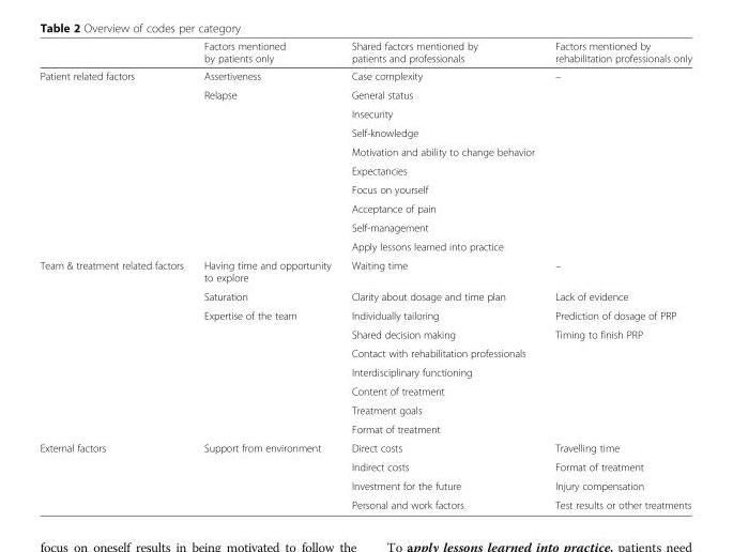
<table><thead><tr><td></td><td>Factors mentioned by patients only</td><td>Shared factors mentioned by patients and professionals</td><td>Factors mentioned by rehabilitation professionals only</td></tr></thead><tbody><tr><td rowspan="10">Patient related factors</td><td>Assertiveness</td><td>Case complexity</td><td>–</td></tr><tr><td>Relapse</td><td>General status</td><td></td></tr><tr><td></td><td>Insecurity</td><td></td></tr><tr><td></td><td>Self-knowledge</td><td></td></tr><tr><td></td><td>Motivation and ability to change behavior</td><td></td></tr><tr><td></td><td>Expectancies</td><td></td></tr><tr><td></td><td>Focus on yourself</td><td></td></tr><tr><td></td><td>Acceptance of pain</td><td></td></tr><tr><td></td><td>Self-management</td><td></td></tr><tr><td></td><td>Apply lessons learned into practice</td><td></td></tr><tr><td rowspan="9">Team &amp; treatment related factors</td><td>Having time and opportunity to explore</td><td>Waiting time</td><td>–</td></tr><tr><td>Saturation</td><td>Clarity about dosage and time plan</td><td>Lack of evidence</td></tr><tr><td>Expertise of the team</td><td>Individually tailoring</td><td>Prediction of dosage of PRP</td></tr><tr><td></td><td>Shared decision making</td><td>Timing to finish PRP</td></tr><tr><td></td><td>Contact with rehabilitation professionals</td><td></td></tr><tr><td></td><td>Interdisciplinary functioning</td><td></td></tr><tr><td></td><td>Content of treatment</td><td></td></tr><tr><td></td><td>Treatment goals</td><td></td></tr><tr><td></td><td>Format of treatment</td><td></td></tr><tr><td rowspan="4">External factors</td><td>Support from environment</td><td>Direct costs</td><td>Travelling time</td></tr><tr><td></td><td>Indirect costs</td><td>Format of treatment</td></tr><tr><td></td><td>Investment for the future</td><td>Injury compensation</td></tr><tr><td></td><td>Personal and work factors</td><td>Test results or other treatments</td></tr></tbody></table>